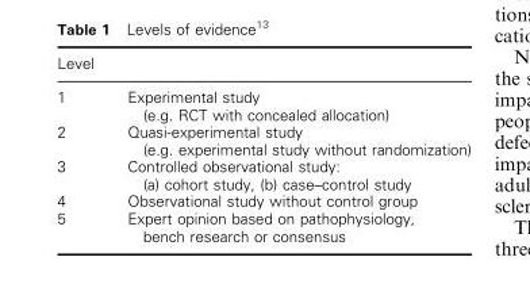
<table><thead><tr><td>Level</td><td></td></tr></thead><tbody><tr><td>1</td><td>Experimental study (e.g. RCT with concealed allocation)</td></tr><tr><td>2</td><td>Quasi-experimental study (e.g. experimental study without randomization)</td></tr><tr><td>3</td><td>Controlled observational study: (a) cohort study, (b) case–control study</td></tr><tr><td>4</td><td>Observational study without control group</td></tr><tr><td>5</td><td>Expert opinion based on pathophysiology, bench research or consensus</td></tr></tbody></table>